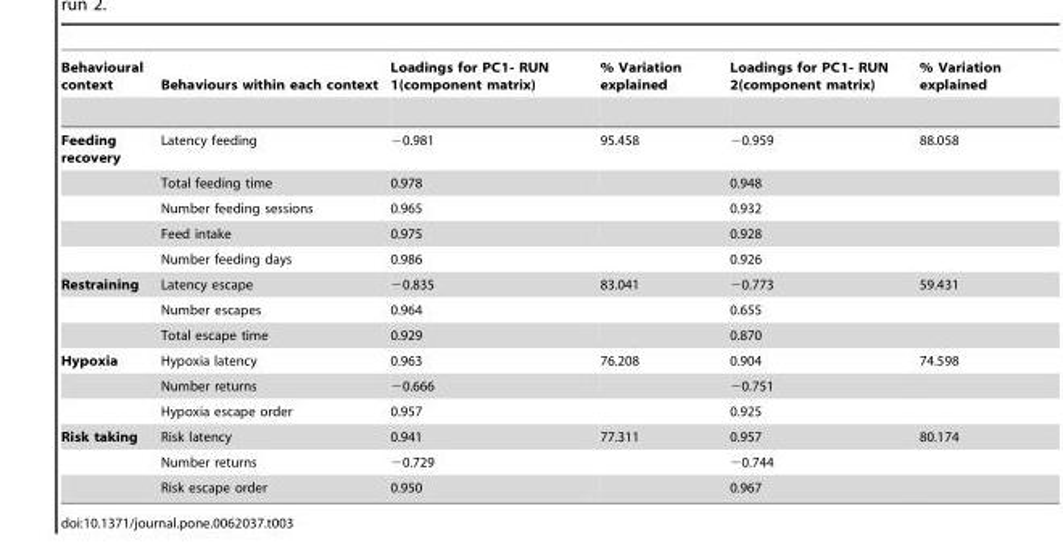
<table><thead><tr><td>Behavioural context</td><td>Behaviours within each context</td><td>Loadings for PC1- RUN 1(component matrix)</td><td>% Variation explained</td><td>Loadings for PC1- RUN 2(component matrix)</td><td>% Variation explained</td></tr></thead><tbody><tr><td rowspan="5">Feeding recovery</td><td>Latency feeding</td><td>−0.981</td><td>95.458</td><td>−0.959</td><td>88.058</td></tr><tr><td>Total feeding time</td><td>0.978</td><td></td><td>0.948</td><td></td></tr><tr><td>Number feeding sessions</td><td>0.965</td><td></td><td>0.932</td><td></td></tr><tr><td>Feed intake</td><td>0.975</td><td></td><td>0.928</td><td></td></tr><tr><td>Number feeding days</td><td>0.986</td><td></td><td>0.926</td><td></td></tr><tr><td rowspan="3">Restraining</td><td>Latency escape</td><td>−0.835</td><td>83.041</td><td>−0.773</td><td>59.431</td></tr><tr><td>Number escapes</td><td>0.964</td><td></td><td>0.655</td><td></td></tr><tr><td>Total escape time</td><td>0.929</td><td></td><td>0.870</td><td></td></tr><tr><td rowspan="3">Hypoxia</td><td>Hypoxia latency</td><td>0.963</td><td>76.208</td><td>0.904</td><td>74.598</td></tr><tr><td>Number returns</td><td>−0.666</td><td></td><td>−0.751</td><td></td></tr><tr><td>Hypoxia escape order</td><td>0.957</td><td></td><td>0.925</td><td></td></tr><tr><td rowspan="3">Risk taking</td><td>Risk latency</td><td>0.941</td><td>77.311</td><td>0.957</td><td>80.174</td></tr><tr><td>Number returns</td><td>−0.729</td><td></td><td>−0.744</td><td></td></tr><tr><td>Risk escape order</td><td>0.950</td><td></td><td>0.967</td><td></td></tr></tbody></table>